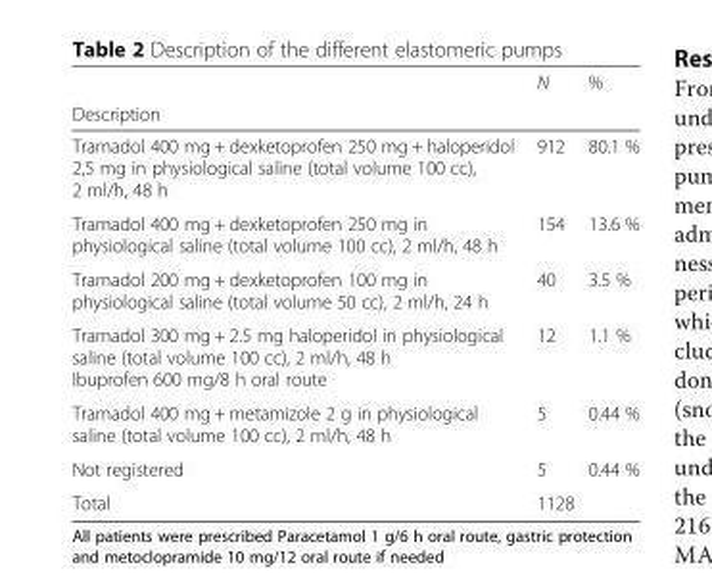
<table><thead><tr><td></td><td>N</td><td>%</td></tr><tr><td colspan="3">Description</td></tr></thead><tbody><tr><td>Tramadol 400 mg + dexketoprofen 250 mg + haloperidol 2,5 mg in physiological saline (total volume 100 cc), 2 ml/h, 48 h</td><td>912</td><td>80.1 %</td></tr><tr><td>Tramadol 400 mg + dexketoprofen 250 mg in physiological saline (total volume 100 cc), 2 ml/h, 48 h</td><td>154</td><td>13.6 %</td></tr><tr><td>Tramadol 200 mg + dexketoprofen 100 mg in physiological saline (total volume 50 cc), 2 ml/h, 24 h</td><td>40</td><td>3.5 %</td></tr><tr><td>Tramadol 300 mg + 2.5 mg haloperidol in physiological saline (total volume 100 cc), 2 ml/h, 48 h Ibuprofen 600 mg/8 h oral route</td><td>12</td><td>1.1 %</td></tr><tr><td>Tramadol 400 mg + metamizole 2 g in physiological saline (total volume 100 cc), 2 ml/h, 48 h</td><td>5</td><td>0.44 %</td></tr><tr><td>Not registered</td><td>5</td><td>0.44 %</td></tr><tr><td>Total</td><td>1128</td><td></td></tr></tbody></table>